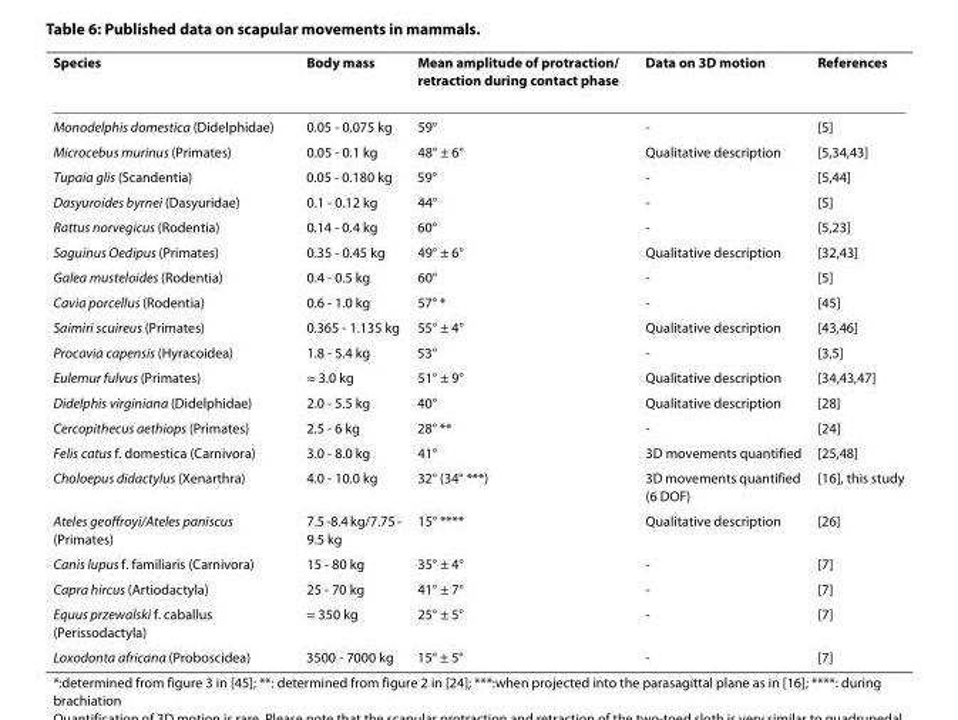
<table><thead><tr><td>Species</td><td>Body mass</td><td>Mean amplitude of protraction/ retraction during contact phase</td><td>Data on 3D motion</td><td>References</td></tr></thead><tbody><tr><td>Monodelphis domestica (Didelphidae)</td><td>0.05 - 0.075 kg</td><td>59°</td><td>-</td><td>[5]</td></tr><tr><td>Microcebus murinus (Primates)</td><td>0.05 - 0.1 kg</td><td>48° ± 6°</td><td>Qualitative description</td><td>[5,34,43]</td></tr><tr><td>Tupaia glis (Scandentia)</td><td>0.05 - 0.180 kg</td><td>59°</td><td>-</td><td>[5,44]</td></tr><tr><td>Dasyuroides byrnei (Dasyuridae)</td><td>0.1 - 0.12 kg</td><td>44°</td><td>-</td><td>[5]</td></tr><tr><td>Rattus norvegicus (Rodentia)</td><td>0.14 - 0.4 kg</td><td>60°</td><td>-</td><td>[5,23]</td></tr><tr><td>Saguinus Oedipus (Primates)</td><td>0.35 - 0.45 kg</td><td>49° ± 6°</td><td>Qualitative description</td><td>[32,43]</td></tr><tr><td>Galea musteloides (Rodentia)</td><td>0.4 - 0.5 kg</td><td>60°</td><td>-</td><td>[5]</td></tr><tr><td>Cavia porcellus (Rodentia)</td><td>0.6 - 1.0 kg</td><td>57° *</td><td>-</td><td>[45]</td></tr><tr><td>Saimiri scuireus (Primates)</td><td>0.365 - 1.135 kg</td><td>55° ± 4°</td><td>Qualitative description</td><td>[43,46]</td></tr><tr><td>Procavia capensis (Hyracoidea)</td><td>1.8 - 5.4 kg</td><td>53°</td><td>-</td><td>[3,5]</td></tr><tr><td>Eulemur fulvus (Primates)</td><td>≈ 3.0 kg</td><td>51° ± 9°</td><td>Qualitative description</td><td>[34,43,47]</td></tr><tr><td>Didelphis virginiana (Didelphidae)</td><td>2.0 - 5.5 kg</td><td>40°</td><td>Qualitative description</td><td>[28]</td></tr><tr><td>Cercopithecus aethiops (Primates)</td><td>2.5 - 6 kg</td><td>28° **</td><td>-</td><td>[24]</td></tr><tr><td>Felis catus f. domestica (Carnivora)</td><td>3.0 - 8.0 kg</td><td>41°</td><td>3D movements quantified</td><td>[25,48]</td></tr><tr><td>Choloepus didactylus (Xenarthra)</td><td>4.0 - 10.0 kg</td><td>32° (34° ***)</td><td>3D movements quantified (6 DOF)</td><td>[16], this study</td></tr><tr><td>Ateles geoffroyi/Ateles paniscus (Primates)</td><td>7.5 -8.4 kg/7.75 - 9.5 kg</td><td>15° ****</td><td>Qualitative description</td><td>[26]</td></tr><tr><td>Canis lupus f. familiaris (Carnivora)</td><td>15 - 80 kg</td><td>35° ± 4°</td><td>-</td><td>[7]</td></tr><tr><td>Capra hircus (Artiodactyla)</td><td>25 - 70 kg</td><td>41° ± 7°</td><td>-</td><td>[7]</td></tr><tr><td>Equus przewalski f. caballus (Perissodactyla)</td><td>≈ 350 kg</td><td>25° ± 5°</td><td>-</td><td>[7]</td></tr><tr><td>Loxodonta africana (Proboscidea)</td><td>3500 - 7000 kg</td><td>15° ± 5°</td><td>-</td><td>[7]</td></tr></tbody></table>